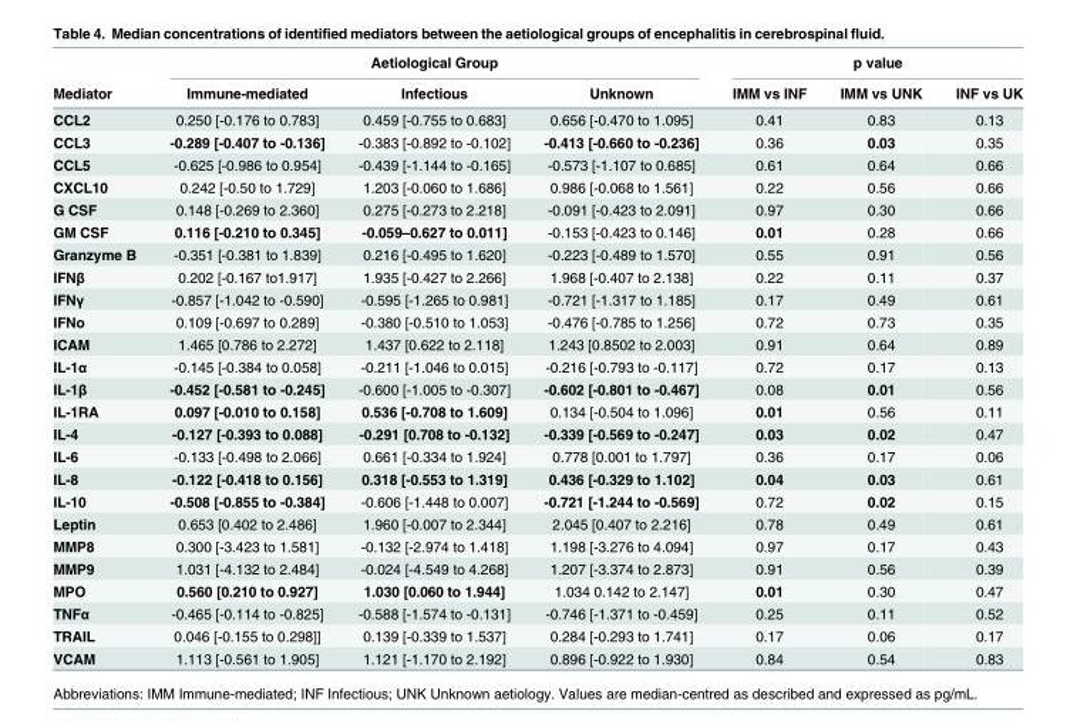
<table><thead><tr><td rowspan="2">Mediator</td><td colspan="3">Aetiological Group</td><td colspan="3">p value</td></tr><tr><td>Immune-mediated</td><td>Infectious</td><td>Unknown</td><td>IMM vs INF</td><td>IMM vs UNK</td><td>INF vs UK</td></tr></thead><tbody><tr><td>CCL2</td><td>0.250 [-0.176 to 0.783]</td><td>0.459 [-0.755 to 0.683]</td><td>0.656 [-0.470 to 1.095]</td><td>0.41</td><td>0.83</td><td>0.13</td></tr><tr><td>CCL3</td><td>-0.289 [-0.407 to -0.136]</td><td>-0.383 [-0.892 to -0.102]</td><td>-0.413 [-0.660 to -0.236]</td><td>0.36</td><td>0.03</td><td>0.35</td></tr><tr><td>CCL5</td><td>-0.625 [-0.986 to 0.954]</td><td>-0.439 [-1.144 to -0.165]</td><td>-0.573 [-1.107 to 0.685]</td><td>0.61</td><td>0.64</td><td>0.66</td></tr><tr><td>CXCL10</td><td>0.242 [-0.50 to 1.729]</td><td>1.203 [-0.060 to 1.686]</td><td>0.986 [-0.068 to 1.561]</td><td>0.22</td><td>0.56</td><td>0.66</td></tr><tr><td>G CSF</td><td>0.148 [-0.269 to 2.360]</td><td>0.275 [-0.273 to 2.218]</td><td>-0.091 [-0.423 to 2.091]</td><td>0.97</td><td>0.30</td><td>0.66</td></tr><tr><td>GM CSF</td><td>0.116 [-0.210 to 0.345]</td><td>-0.059–0.627 to 0.011]</td><td>-0.153 [-0.423 to 0.146]</td><td>0.01</td><td>0.28</td><td>0.66</td></tr><tr><td>Granzyme B</td><td>-0.351 [-0.381 to 1.839]</td><td>0.216 [-0.495 to 1.620]</td><td>-0.223 [-0.489 to 1.570]</td><td>0.55</td><td>0.91</td><td>0.56</td></tr><tr><td>IFNβ</td><td>0.202 [-0.167 to1.917]</td><td>1.935 [-0.427 to 2.266]</td><td>1.968 [-0.407 to 2.138]</td><td>0.22</td><td>0.11</td><td>0.37</td></tr><tr><td>IFNγ</td><td>-0.857 [-1.042 to -0.590]</td><td>-0.595 [-1.265 to 0.981]</td><td>-0.721 [-1.317 to 1.185]</td><td>0.17</td><td>0.49</td><td>0.61</td></tr><tr><td>IFNo</td><td>0.109 [-0.697 to 0.289]</td><td>-0.380 [-0.510 to 1.053]</td><td>-0.476 [-0.785 to 1.256]</td><td>0.72</td><td>0.73</td><td>0.35</td></tr><tr><td>ICAM</td><td>1.465 [0.786 to 2.272]</td><td>1.437 [0.622 to 2.118]</td><td>1.243 [0.8502 to 2.003]</td><td>0.91</td><td>0.64</td><td>0.89</td></tr><tr><td>IL-1α</td><td>-0.145 [-0.384 to 0.058]</td><td>-0.211 [-1.046 to 0.015]</td><td>-0.216 [-0.793 to -0.117]</td><td>0.72</td><td>0.17</td><td>0.13</td></tr><tr><td>IL-1β</td><td>-0.452 [-0.581 to -0.245]</td><td>-0.600 [-1.005 to -0.307]</td><td>-0.602 [-0.801 to -0.467]</td><td>0.08</td><td>0.01</td><td>0.56</td></tr><tr><td>IL-1RA</td><td>0.097 [-0.010 to 0.158]</td><td>0.536 [-0.708 to 1.609]</td><td>0.134 [-0.504 to 1.096]</td><td>0.01</td><td>0.56</td><td>0.11</td></tr><tr><td>IL-4</td><td>-0.127 [-0.393 to 0.088]</td><td>-0.291 [0.708 to -0.132]</td><td>-0.339 [-0.569 to -0.247]</td><td>0.03</td><td>0.02</td><td>0.47</td></tr><tr><td>IL-6</td><td>-0.133 [-0.498 to 2.066]</td><td>0.661 [-0.334 to 1.924]</td><td>0.778 [0.001 to 1.797]</td><td>0.36</td><td>0.17</td><td>0.06</td></tr><tr><td>IL-8</td><td>-0.122 [-0.418 to 0.156]</td><td>0.318 [-0.553 to 1.319]</td><td>0.436 [-0.329 to 1.102]</td><td>0.04</td><td>0.03</td><td>0.61</td></tr><tr><td>IL-10</td><td>-0.508 [-0.855 to -0.384]</td><td>-0.606 [-1.448 to 0.007]</td><td>-0.721 [-1.244 to -0.569]</td><td>0.72</td><td>0.02</td><td>0.15</td></tr><tr><td>Leptin</td><td>0.653 [0.402 to 2.486]</td><td>1.960 [-0.007 to 2.344]</td><td>2.045 [0.407 to 2.216]</td><td>0.78</td><td>0.49</td><td>0.61</td></tr><tr><td>MMP8</td><td>0.300 [-3.423 to 1.581]</td><td>-0.132 [-2.974 to 1.418]</td><td>1.198 [-3.276 to 4.094]</td><td>0.97</td><td>0.17</td><td>0.43</td></tr><tr><td>MMP9</td><td>1.031 [-4.132 to 2.484]</td><td>-0.024 [-4.549 to 4.268]</td><td>1.207 [-3.374 to 2.873]</td><td>0.91</td><td>0.56</td><td>0.39</td></tr><tr><td>MPO</td><td>0.560 [0.210 to 0.927]</td><td>1.030 [0.060 to 1.944]</td><td>1.034 0.142 to 2.147]</td><td>0.01</td><td>0.30</td><td>0.47</td></tr><tr><td>TNFα</td><td>-0.465 [-0.114 to -0.825]</td><td>-0.588 [-1.574 to -0.131]</td><td>-0.746 [-1.371 to -0.459]</td><td>0.25</td><td>0.11</td><td>0.52</td></tr><tr><td>TRAIL</td><td>0.046 [-0.155 to 0.298]]</td><td>0.139 [-0.339 to 1.537]</td><td>0.284 [-0.293 to 1.741]</td><td>0.17</td><td>0.06</td><td>0.17</td></tr><tr><td>VCAM</td><td>1.113 [-0.561 to 1.905]</td><td>1.121 [-1.170 to 2.192]</td><td>0.896 [-0.922 to 1.930]</td><td>0.84</td><td>0.54</td><td>0.83</td></tr></tbody></table>